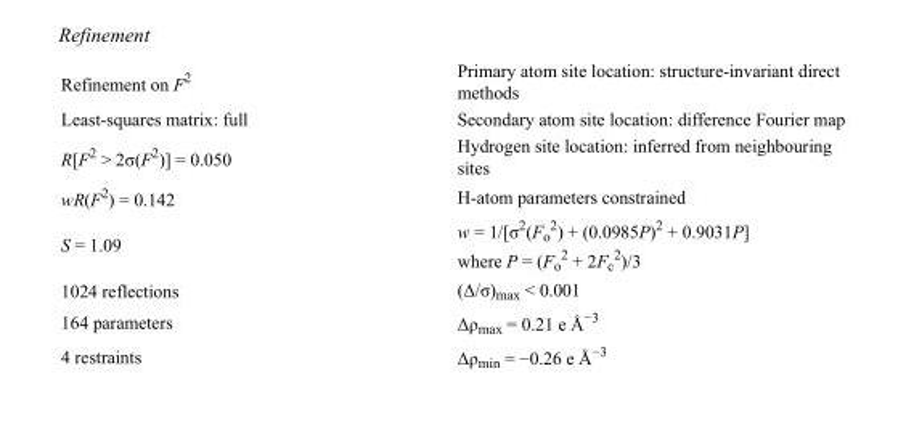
<table><tbody><tr><td>Refinement on F<sup>2</sup></td><td>Primary atom site location: structure-invariant direct methods</td></tr><tr><td>Least-squares matrix: full</td><td>Secondary atom site location: difference Fourier map</td></tr><tr><td>R[F<sup>2</sup> &gt; 2σ(F<sup>2</sup>)] = 0.050</td><td>Hydrogen site location: inferred from neighbouring sites</td></tr><tr><td>wR(F<sup>2</sup>) = 0.142</td><td>H-atom parameters constrained</td></tr><tr><td>S = 1.09</td><td>w = 1/[σ<sup>2</sup>(F<sub>o</sub> <sup>2</sup>) + (0.0985P)<sup>2</sup> + 0.9031P] where P = (F<sub>o</sub> <sup>2</sup> + 2F<sub>c</sub> <sup>2</sup>)/3</td></tr><tr><td>1024 reflections</td><td>(Δ/σ)<sub>max</sub> &lt; 0.001</td></tr><tr><td>164 parameters</td><td>Δρ<sub>max</sub> = 0.21 e Å<sup>−3</sup></td></tr><tr><td>4 restraints</td><td>Δρ<sub>min</sub> = −0.26 e Å<sup>−3</sup></td></tr></tbody></table>